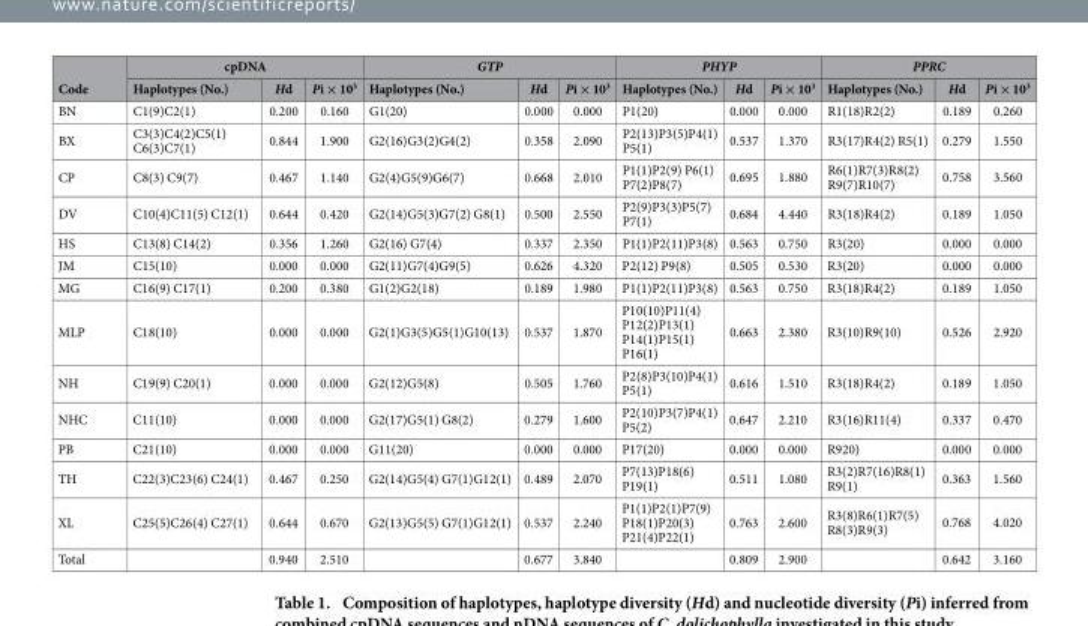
<table><thead><tr><td rowspan="2">Code</td><td colspan="3">cpDNA</td><td colspan="3">GTP</td><td colspan="3">PHYP</td><td colspan="3">PPRC</td></tr><tr><td>Haplotypes (No.)</td><td>Hd</td><td>Pi × 10<sup>3</sup></td><td>Haplotypes (No.)</td><td>Hd</td><td>Pi × 10<sup>3</sup></td><td>Haplotypes (No.)</td><td>Hd</td><td>Pi × 10<sup>3</sup></td><td>Haplotypes (No.)</td><td>Hd</td><td>Pi × 10<sup>3</sup></td></tr></thead><tbody><tr><td>BN</td><td>C1(9)C2(1)</td><td>0.200</td><td>0.160</td><td>G1(20)</td><td>0.000</td><td>0.000</td><td>P1(20)</td><td>0.000</td><td>0.000</td><td>R1(18)R2(2)</td><td>0.189</td><td>0.260</td></tr><tr><td>BX</td><td>C3(3)C4(2)C5(1) C6(3)C7(1)</td><td>0.844</td><td>1.900</td><td>G2(16)G3(2)G4(2)</td><td>0.358</td><td>2.090</td><td>P2(13)P3(5)P4(1) P5(1)</td><td>0.537</td><td>1.370</td><td>R3(17)R4(2) R5(1)</td><td>0.279</td><td>1.550</td></tr><tr><td>CP</td><td>C8(3) C9(7)</td><td>0.467</td><td>1.140</td><td>G2(4)G5(9)G6(7)</td><td>0.668</td><td>2.010</td><td>P1(1)P2(9) P6(1) P7(2)P8(7)</td><td>0.695</td><td>1.880</td><td>R6(1)R7(3)R8(2) R9(7)R10(7)</td><td>0.758</td><td>3.560</td></tr><tr><td>DV</td><td>C10(4)C11(5) C12(1)</td><td>0.644</td><td>0.420</td><td>G2(14)G5(3)G7(2) G8(1)</td><td>0.500</td><td>2.550</td><td>P2(9)P3(3)P5(7) P7(1)</td><td>0.684</td><td>4.440</td><td>R3(18)R4(2)</td><td>0.189</td><td>1.050</td></tr><tr><td>HS</td><td>C13(8) C14(2)</td><td>0.356</td><td>1.260</td><td>G2(16) G7(4)</td><td>0.337</td><td>2.350</td><td>P1(1)P2(11)P3(8)</td><td>0.563</td><td>0.750</td><td>R3(20)</td><td>0.000</td><td>0.000</td></tr><tr><td>JM</td><td>C15(10)</td><td>0.000</td><td>0.000</td><td>G2(11)G7(4)G9(5)</td><td>0.626</td><td>4.320</td><td>P2(12) P9(8)</td><td>0.505</td><td>0.530</td><td>R3(20)</td><td>0.000</td><td>0.000</td></tr><tr><td>MG</td><td>C16(9) C17(1)</td><td>0.200</td><td>0.380</td><td>G1(2)G2(18)</td><td>0.189</td><td>1.980</td><td>P1(1)P2(11)P3(8)</td><td>0.563</td><td>0.750</td><td>R3(18)R4(2)</td><td>0.189</td><td>1.050</td></tr><tr><td>MLP</td><td>C18(10)</td><td>0.000</td><td>0.000</td><td>G2(1)G3(5)G5(1)G10(13)</td><td>0.537</td><td>1.870</td><td>P10(10)P11(4) P12(2)P13(1) P14(1)P15(1) P16(1)</td><td>0.663</td><td>2.380</td><td>R3(10)R9(10)</td><td>0.526</td><td>2.920</td></tr><tr><td>NH</td><td>C19(9) C20(1)</td><td>0.000</td><td>0.000</td><td>G2(12)G5(8)</td><td>0.505</td><td>1.760</td><td>P2(8)P3(10)P4(1) P5(1)</td><td>0.616</td><td>1.510</td><td>R3(18)R4(2)</td><td>0.189</td><td>1.050</td></tr><tr><td>NHC</td><td>C11(10)</td><td>0.000</td><td>0.000</td><td>G2(17)G5(1) G8(2)</td><td>0.279</td><td>1.600</td><td>P2(10)P3(7)P4(1) P5(2)</td><td>0.647</td><td>2.210</td><td>R3(16)R11(4)</td><td>0.337</td><td>0.470</td></tr><tr><td>PB</td><td>C21(10)</td><td>0.000</td><td>0.000</td><td>G11(20)</td><td>0.000</td><td>0.000</td><td>P17(20)</td><td>0.000</td><td>0.000</td><td>R920)</td><td>0.000</td><td>0.000</td></tr><tr><td>TH</td><td>C22(3)C23(6) C24(1)</td><td>0.467</td><td>0.250</td><td>G2(14)G5(4) G7(1)G12(1)</td><td>0.489</td><td>2.070</td><td>P7(13)P18(6) P19(1)</td><td>0.511</td><td>1.080</td><td>R3(2)R7(16)R8(1) R9(1)</td><td>0.363</td><td>1.560</td></tr><tr><td>XL</td><td>C25(5)C26(4) C27(1)</td><td>0.644</td><td>0.670</td><td>G2(13)G5(5) G7(1)G12(1)</td><td>0.537</td><td>2.240</td><td>P1(1)P2(1)P7(9) P18(1)P20(3) P21(4)P22(1)</td><td>0.763</td><td>2.600</td><td>R3(8)R6(1)R7(5) R8(3)R9(3)</td><td>0.768</td><td>4.020</td></tr><tr><td>Total</td><td></td><td>0.940</td><td>2.510</td><td></td><td>0.677</td><td>3.840</td><td></td><td>0.809</td><td>2.900</td><td></td><td>0.642</td><td>3.160</td></tr></tbody></table>